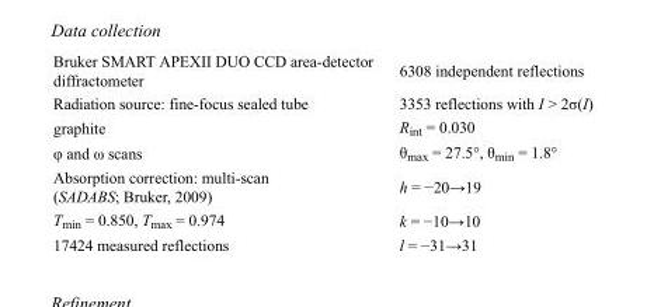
<table><tbody><tr><td>Bruker SMART APEXII DUO CCD area-detector diffractometer</td><td>6308 independent reflections</td></tr><tr><td>Radiation source: fine-focus sealed tube</td><td>3353 reflections with I &gt; 2σ(I)</td></tr><tr><td>graphite</td><td>R<sub>int</sub> = 0.030</td></tr><tr><td>φ and ω scans</td><td>θ<sub>max</sub> = 27.5°, θ<sub>min</sub> = 1.8°</td></tr><tr><td>Absorption correction: multi-scan (SADABS; Bruker, 2009)</td><td>h = −20→19</td></tr><tr><td>T<sub>min</sub> = 0.850, T<sub>max</sub> = 0.974</td><td>k = −10→10</td></tr><tr><td>17424 measured reflections</td><td>l = −31→31</td></tr></tbody></table>